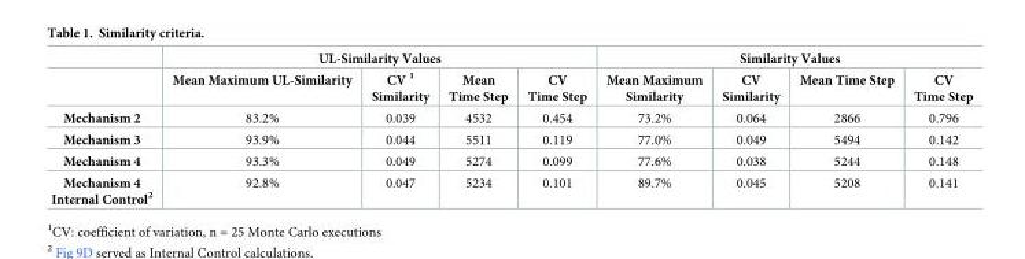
<table><thead><tr><td rowspan="2"></td><td colspan="4">UL-Similarity Values</td><td colspan="4">Similarity Values</td></tr><tr><td>Mean Maximum UL-Similarity</td><td>CV <sup>1</sup> Similarity</td><td>Mean Time Step</td><td>CV Time Step</td><td>Mean Maximum Similarity</td><td>CV Similarity</td><td>Mean Time Step</td><td>CV Time Step</td></tr></thead><tbody><tr><td>Mechanism 2</td><td>83.2%</td><td>0.039</td><td>4532</td><td>0.454</td><td>73.2%</td><td>0.064</td><td>2866</td><td>0.796</td></tr><tr><td>Mechanism 3</td><td>93.9%</td><td>0.044</td><td>5511</td><td>0.119</td><td>77.0%</td><td>0.049</td><td>5494</td><td>0.142</td></tr><tr><td>Mechanism 4</td><td>93.3%</td><td>0.049</td><td>5274</td><td>0.099</td><td>77.6%</td><td>0.038</td><td>5244</td><td>0.148</td></tr><tr><td>Mechanism 4 Internal Control<sup>2</sup></td><td>92.8%</td><td>0.047</td><td>5234</td><td>0.101</td><td>89.7%</td><td>0.045</td><td>5208</td><td>0.141</td></tr></tbody></table>